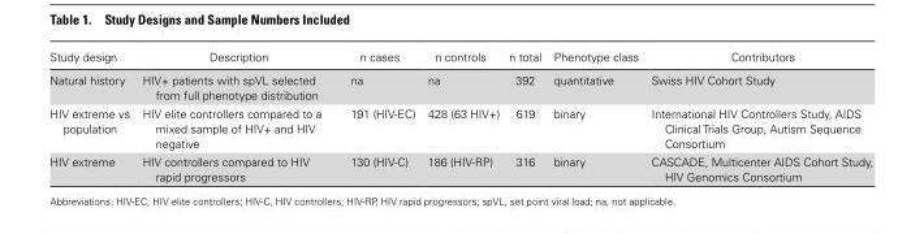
<table><thead><tr><td>Study design</td><td>Description</td><td>n cases</td><td>n controls</td><td>n total</td><td>Phenotype class</td><td>Contributors</td></tr></thead><tbody><tr><td>Natural history</td><td>HIV+ patients with spVL selected from full phenotype distribution</td><td>na</td><td>na</td><td>392</td><td>quantitative</td><td>Swiss HIV Cohort Study</td></tr><tr><td>HIV extreme vs population</td><td>HIV elite controllers compared to a mixed sample of HIV+ and HIV negative</td><td>191 (HIV-EC)</td><td>428 (63 HIV+)</td><td>619</td><td>binary</td><td>International HIV Controllers Study, AIDS Clinical Trials Group, Autism Sequence Consortium</td></tr><tr><td>HIV extreme</td><td>HIV controllers compared to HIV rapid progressors</td><td>130 (HIV-C)</td><td>186 (HIV-RP)</td><td>316</td><td>binary</td><td>CASCADE, Multicenter AIDS Cohort Study, HIV Genomics Consortium</td></tr></tbody></table>